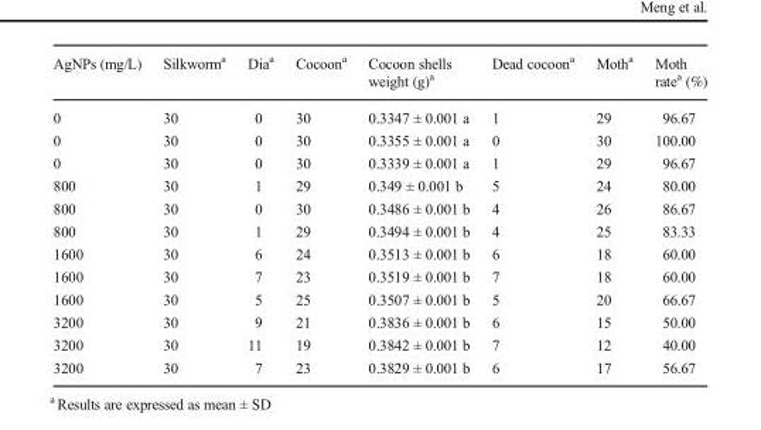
<table><thead><tr><td>AgNPs (mg/L)</td><td>Silkworm<sup>a</sup></td><td>Dia<sup>a</sup></td><td>Cocoon<sup>a</sup></td><td>Cocoon shells weight (g)<sup>a</sup></td><td>Dead cocoon<sup>a</sup></td><td>Moth<sup>a</sup></td><td>Moth rate<sup>a</sup> (%)</td></tr></thead><tbody><tr><td>0</td><td>30</td><td>0</td><td>30</td><td>0.3347 ± 0.001 a</td><td>1</td><td>29</td><td>96.67</td></tr><tr><td>0</td><td>30</td><td>0</td><td>30</td><td>0.3355 ± 0.001 a</td><td>0</td><td>30</td><td>100.00</td></tr><tr><td>0</td><td>30</td><td>0</td><td>30</td><td>0.3339 ± 0.001 a</td><td>1</td><td>29</td><td>96.67</td></tr><tr><td>800</td><td>30</td><td>1</td><td>29</td><td>0.349 ± 0.001 b</td><td>5</td><td>24</td><td>80.00</td></tr><tr><td>800</td><td>30</td><td>0</td><td>30</td><td>0.3486 ± 0.001 b</td><td>4</td><td>26</td><td>86.67</td></tr><tr><td>800</td><td>30</td><td>1</td><td>29</td><td>0.3494 ± 0.001 b</td><td>4</td><td>25</td><td>83.33</td></tr><tr><td>1600</td><td>30</td><td>6</td><td>24</td><td>0.3513 ± 0.001 b</td><td>6</td><td>18</td><td>60.00</td></tr><tr><td>1600</td><td>30</td><td>7</td><td>23</td><td>0.3519 ± 0.001 b</td><td>7</td><td>18</td><td>60.00</td></tr><tr><td>1600</td><td>30</td><td>5</td><td>25</td><td>0.3507 ± 0.001 b</td><td>5</td><td>20</td><td>66.67</td></tr><tr><td>3200</td><td>30</td><td>9</td><td>21</td><td>0.3836 ± 0.001 b</td><td>6</td><td>15</td><td>50.00</td></tr><tr><td>3200</td><td>30</td><td>11</td><td>19</td><td>0.3842 ± 0.001 b</td><td>7</td><td>12</td><td>40.00</td></tr><tr><td>3200</td><td>30</td><td>7</td><td>23</td><td>0.3829 ± 0.001 b</td><td>6</td><td>17</td><td>56.67</td></tr></tbody></table>